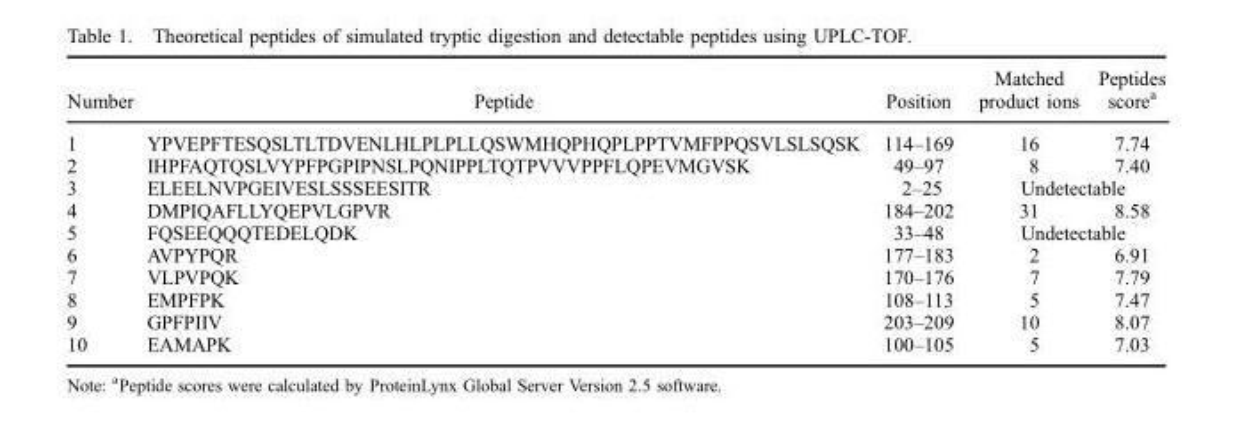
<table><thead><tr><td>Number</td><td>Peptide</td><td>Position</td><td>Matched product ions</td><td>Peptides score<sup>a</sup></td></tr></thead><tbody><tr><td>1</td><td>YPVEPFTESQSLTLTDVENLHLPLPLLQSWMHQPHQPLPPTVMFPPQSVLSLSQSK</td><td>114–169</td><td>16</td><td>7.74</td></tr><tr><td>2</td><td>IHPFAQTQSLVYPFPGPIPNSLPQNIPPLTQTPVVVPPFLQPEVMGVSK</td><td>49–97</td><td>8</td><td>7.40</td></tr><tr><td>3</td><td>ELEELNVPGEIVESLSSSEESITR</td><td>2–25</td><td colspan="2">Undetectable</td></tr><tr><td>4</td><td>DMPIQAFLLYQEPVLGPVR</td><td>184–202</td><td>31</td><td>8.58</td></tr><tr><td>5</td><td>FQSEEQQQTEDELQDK</td><td>33–48</td><td colspan="2">Undetectable</td></tr><tr><td>6</td><td>AVPYPQR</td><td>177–183</td><td>2</td><td>6.91</td></tr><tr><td>7</td><td>VLPVPQK</td><td>170–176</td><td>7</td><td>7.79</td></tr><tr><td>8</td><td>EMPFPK</td><td>108–113</td><td>5</td><td>7.47</td></tr><tr><td>9</td><td>GPFPIIV</td><td>203–209</td><td>10</td><td>8.07</td></tr><tr><td>10</td><td>EAMAPK</td><td>100–105</td><td>5</td><td>7.03</td></tr></tbody></table>